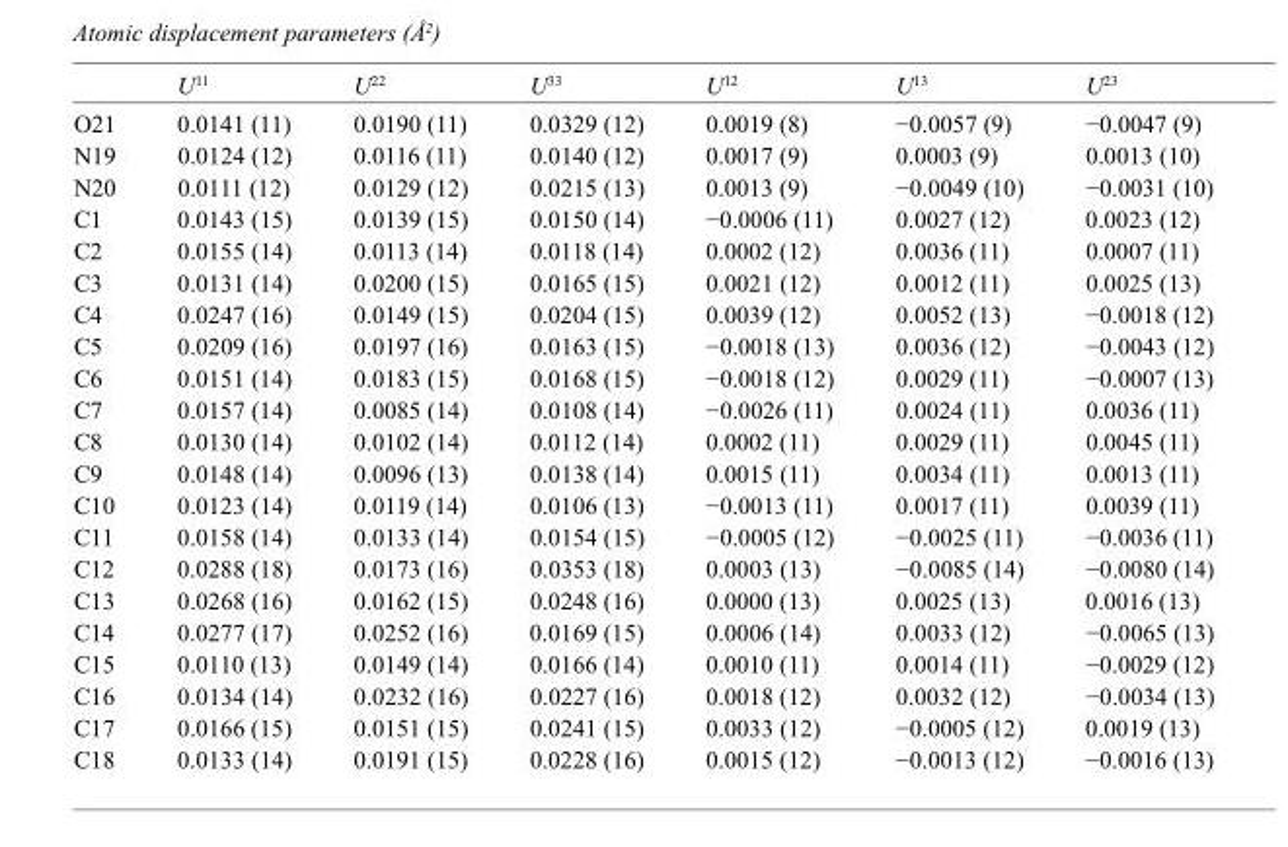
<table><thead><tr><td></td><td>U<sup>11</sup></td><td>U<sup>22</sup></td><td>U<sup>33</sup></td><td>U<sup>12</sup></td><td>U<sup>13</sup></td><td>U<sup>23</sup></td></tr></thead><tbody><tr><td>O21</td><td>0.0141 (11)</td><td>0.0190 (11)</td><td>0.0329 (12)</td><td>0.0019 (8)</td><td>−0.0057 (9)</td><td>−0.0047 (9)</td></tr><tr><td>N19</td><td>0.0124 (12)</td><td>0.0116 (11)</td><td>0.0140 (12)</td><td>0.0017 (9)</td><td>0.0003 (9)</td><td>0.0013 (10)</td></tr><tr><td>N20</td><td>0.0111 (12)</td><td>0.0129 (12)</td><td>0.0215 (13)</td><td>0.0013 (9)</td><td>−0.0049 (10)</td><td>−0.0031 (10)</td></tr><tr><td>C1</td><td>0.0143 (15)</td><td>0.0139 (15)</td><td>0.0150 (14)</td><td>−0.0006 (11)</td><td>0.0027 (12)</td><td>0.0023 (12)</td></tr><tr><td>C2</td><td>0.0155 (14)</td><td>0.0113 (14)</td><td>0.0118 (14)</td><td>0.0002 (12)</td><td>0.0036 (11)</td><td>0.0007 (11)</td></tr><tr><td>C3</td><td>0.0131 (14)</td><td>0.0200 (15)</td><td>0.0165 (15)</td><td>0.0021 (12)</td><td>0.0012 (11)</td><td>0.0025 (13)</td></tr><tr><td>C4</td><td>0.0247 (16)</td><td>0.0149 (15)</td><td>0.0204 (15)</td><td>0.0039 (12)</td><td>0.0052 (13)</td><td>−0.0018 (12)</td></tr><tr><td>C5</td><td>0.0209 (16)</td><td>0.0197 (16)</td><td>0.0163 (15)</td><td>−0.0018 (13)</td><td>0.0036 (12)</td><td>−0.0043 (12)</td></tr><tr><td>C6</td><td>0.0151 (14)</td><td>0.0183 (15)</td><td>0.0168 (15)</td><td>−0.0018 (12)</td><td>0.0029 (11)</td><td>−0.0007 (13)</td></tr><tr><td>C7</td><td>0.0157 (14)</td><td>0.0085 (14)</td><td>0.0108 (14)</td><td>−0.0026 (11)</td><td>0.0024 (11)</td><td>0.0036 (11)</td></tr><tr><td>C8</td><td>0.0130 (14)</td><td>0.0102 (14)</td><td>0.0112 (14)</td><td>0.0002 (11)</td><td>0.0029 (11)</td><td>0.0045 (11)</td></tr><tr><td>C9</td><td>0.0148 (14)</td><td>0.0096 (13)</td><td>0.0138 (14)</td><td>0.0015 (11)</td><td>0.0034 (11)</td><td>0.0013 (11)</td></tr><tr><td>C10</td><td>0.0123 (14)</td><td>0.0119 (14)</td><td>0.0106 (13)</td><td>−0.0013 (11)</td><td>0.0017 (11)</td><td>0.0039 (11)</td></tr><tr><td>C11</td><td>0.0158 (14)</td><td>0.0133 (14)</td><td>0.0154 (15)</td><td>−0.0005 (12)</td><td>−0.0025 (11)</td><td>−0.0036 (11)</td></tr><tr><td>C12</td><td>0.0288 (18)</td><td>0.0173 (16)</td><td>0.0353 (18)</td><td>0.0003 (13)</td><td>−0.0085 (14)</td><td>−0.0080 (14)</td></tr><tr><td>C13</td><td>0.0268 (16)</td><td>0.0162 (15)</td><td>0.0248 (16)</td><td>0.0000 (13)</td><td>0.0025 (13)</td><td>0.0016 (13)</td></tr><tr><td>C14</td><td>0.0277 (17)</td><td>0.0252 (16)</td><td>0.0169 (15)</td><td>0.0006 (14)</td><td>0.0033 (12)</td><td>−0.0065 (13)</td></tr><tr><td>C15</td><td>0.0110 (13)</td><td>0.0149 (14)</td><td>0.0166 (14)</td><td>0.0010 (11)</td><td>0.0014 (11)</td><td>−0.0029 (12)</td></tr><tr><td>C16</td><td>0.0134 (14)</td><td>0.0232 (16)</td><td>0.0227 (16)</td><td>0.0018 (12)</td><td>0.0032 (12)</td><td>−0.0034 (13)</td></tr><tr><td>C17</td><td>0.0166 (15)</td><td>0.0151 (15)</td><td>0.0241 (15)</td><td>0.0033 (12)</td><td>−0.0005 (12)</td><td>0.0019 (13)</td></tr><tr><td>C18</td><td>0.0133 (14)</td><td>0.0191 (15)</td><td>0.0228 (16)</td><td>0.0015 (12)</td><td>−0.0013 (12)</td><td>−0.0016 (13)</td></tr></tbody></table>